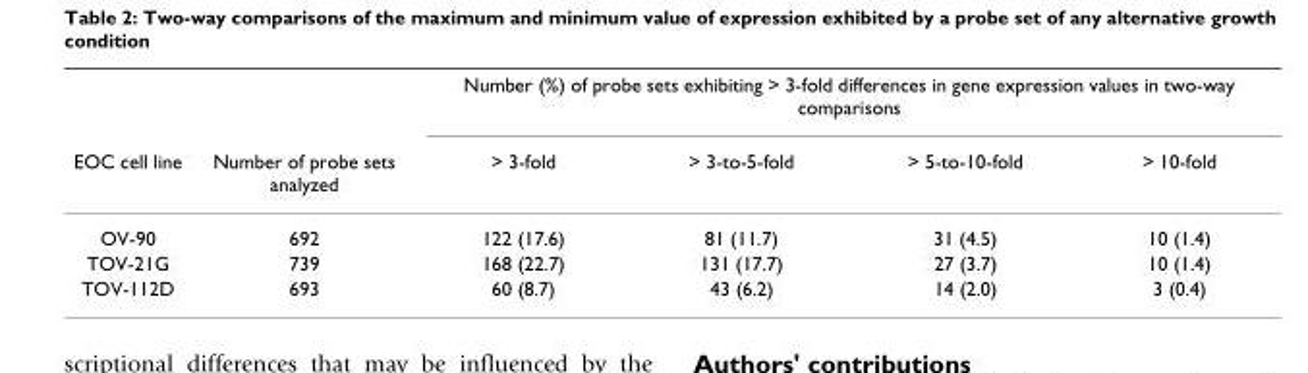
<table><thead><tr><td rowspan="2">EOC cell line</td><td rowspan="2">Number of probe sets analyzed</td><td colspan="4">Number (%) of probe sets exhibiting &gt; 3-fold differences in gene expression values in two-way comparisons</td></tr><tr><td>&gt; 3-fold</td><td>&gt; 3-to-5-fold</td><td>&gt; 5-to-10-fold</td><td>&gt; 10-fold</td></tr></thead><tbody><tr><td>OV-90</td><td>692</td><td>122 (17.6)</td><td>81 (11.7)</td><td>31 (4.5)</td><td>10 (1.4)</td></tr><tr><td>TOV-21G</td><td>739</td><td>168 (22.7)</td><td>131 (17.7)</td><td>27 (3.7)</td><td>10 (1.4)</td></tr><tr><td>TOV-112D</td><td>693</td><td>60 (8.7)</td><td>43 (6.2)</td><td>14 (2.0)</td><td>3 (0.4)</td></tr></tbody></table>